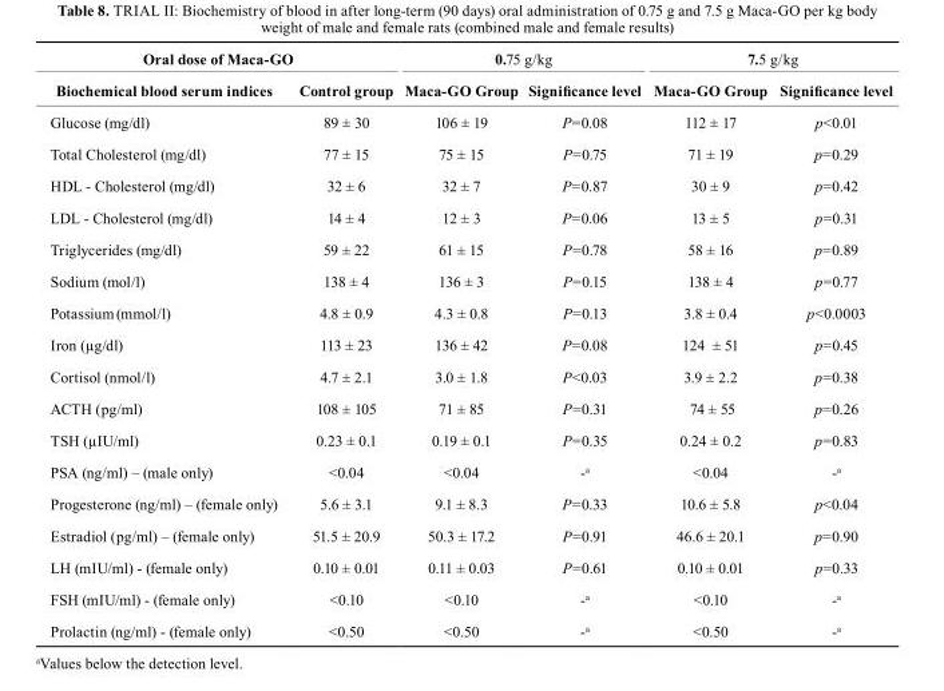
<table><thead><tr><td colspan="2">Oral dose of Maca-GO</td><td colspan="2">0.75 g/kg</td><td colspan="2">7.5 g/kg</td></tr><tr><td>biochemical blood serum indices</td><td>control group</td><td>Maca-GO Group</td><td>Significance level</td><td>Maca-GO Group</td><td>Significance level</td></tr></thead><tbody><tr><td>Glucose (mg/dl)</td><td>89 ± 30</td><td>106 ± 19</td><td>P=0.08</td><td>112 ± 17</td><td>p&lt;0.01</td></tr><tr><td>Total Cholesterol (mg/dl)</td><td>77 ± 15</td><td>75 ± 15</td><td>P=0.75</td><td>71 ± 19</td><td>p=0.29</td></tr><tr><td>HDL - Cholesterol (mg/dl)</td><td>32 ± 6</td><td>32 ± 7</td><td>P=0.87</td><td>30 ± 9</td><td>p=0.42</td></tr><tr><td>LDL - Cholesterol (mg/dl)</td><td>14 ± 4</td><td>12 ± 3</td><td>P=0.06</td><td>13 ± 5</td><td>p=0.31</td></tr><tr><td>Triglycerides (mg/dl)</td><td>59 ± 22</td><td>61 ± 15</td><td>P=0.78</td><td>58 ± 16</td><td>p=0.89</td></tr><tr><td>Sodium (mol/l)</td><td>138 ± 4</td><td>136 ± 3</td><td>P=0.15</td><td>138 ± 4</td><td>p=0.77</td></tr><tr><td>Potassium (mmol/l)</td><td>4.8 ± 0.9</td><td>4.3 ± 0.8</td><td>P=0.13</td><td>3.8 ± 0.4</td><td>p&lt;0.0003</td></tr><tr><td>Iron (µg/dl)</td><td>113 ± 23</td><td>136 ± 42</td><td>P=0.08</td><td>124 ± 51</td><td>p=0.45</td></tr><tr><td>Cortisol (nmol/l)</td><td>4.7 ± 2.1</td><td>3.0 ± 1.8</td><td>P&lt;0.03</td><td>3.9 ± 2.2</td><td>p=0.38</td></tr><tr><td>ACTH (pg/ml)</td><td>108 ± 105</td><td>71 ± 85</td><td>P=0.31</td><td>74 ± 55</td><td>p=0.26</td></tr><tr><td>TSH (µIU/ml)</td><td>0.23 ± 0.1</td><td>0.19 ± 0.1</td><td>P=0.35</td><td>0.24 ± 0.2</td><td>p=0.83</td></tr><tr><td>PSA (ng/ml) – (male only)</td><td>&lt;0.04</td><td>&lt;0.04</td><td>-a</td><td>&lt;0.04</td><td>-a</td></tr><tr><td>Progesterone (ng/ml) – (female only)</td><td>5.6 ± 3.1</td><td>9.1 ± 8.3</td><td>P=0.33</td><td>10.6 ± 5.8</td><td>p&lt;0.04</td></tr><tr><td>Estradiol (pg/ml) – (female only)</td><td>51.5 ± 20.9</td><td>50.3 ± 17.2</td><td>P=0.91</td><td>46.6 ± 20.1</td><td>p=0.90</td></tr><tr><td>LH (mIU/ml) - (female only)</td><td>0.10 ± 0.01</td><td>0.11 ± 0.03</td><td>P=0.61</td><td>0.10 ± 0.01</td><td>p=0.33</td></tr><tr><td>FSH (mIU/ml) - (female only)</td><td>&lt;0.10</td><td>&lt;0.10</td><td>-a</td><td>&lt;0.10</td><td>-a</td></tr><tr><td>Prolactin (ng/ml) - (female only)</td><td>&lt;0.50</td><td>&lt;0.50</td><td>-a</td><td>&lt;0.50</td><td>-a</td></tr></tbody></table>